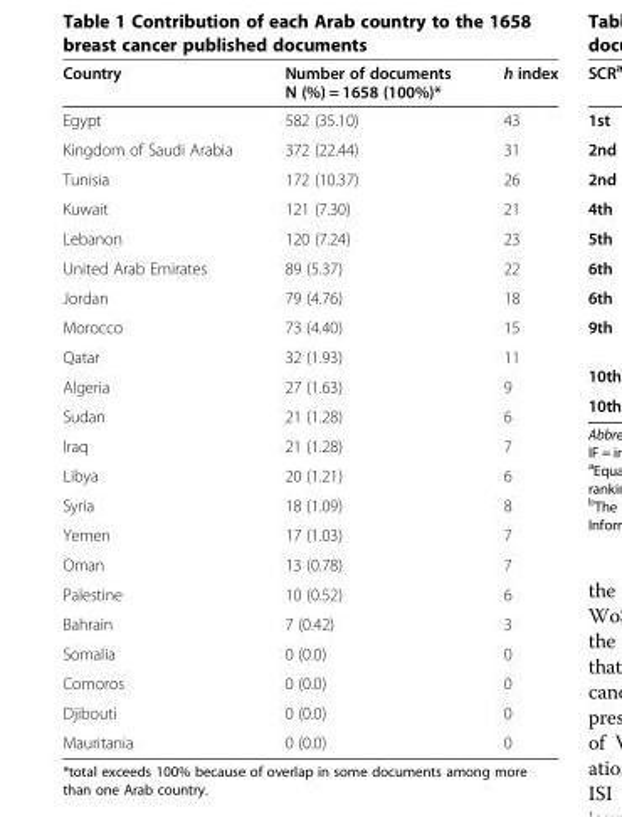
<table><thead><tr><td>Country</td><td>Number of documents N (%) = 1658 (100%)*</td><td>h index</td></tr></thead><tbody><tr><td>Egypt</td><td>582 (35.10)</td><td>43</td></tr><tr><td>Kingdom of Saudi Arabia</td><td>372 (22.44)</td><td>31</td></tr><tr><td>Tunisia</td><td>172 (10.37)</td><td>26</td></tr><tr><td>Kuwait</td><td>121 (7.30)</td><td>21</td></tr><tr><td>Lebanon</td><td>120 (7.24)</td><td>23</td></tr><tr><td>United Arab Emirates</td><td>89 (5.37)</td><td>22</td></tr><tr><td>Jordan</td><td>79 (4.76)</td><td>18</td></tr><tr><td>Morocco</td><td>73 (4.40)</td><td>15</td></tr><tr><td>Qatar</td><td>32 (1.93)</td><td>11</td></tr><tr><td>Algeria</td><td>27 (1.63)</td><td>9</td></tr><tr><td>Sudan</td><td>21 (1.28)</td><td>6</td></tr><tr><td>Iraq</td><td>21 (1.28)</td><td>7</td></tr><tr><td>Libya</td><td>20 (1.21)</td><td>6</td></tr><tr><td>Syria</td><td>18 (1.09)</td><td>8</td></tr><tr><td>Yemen</td><td>17 (1.03)</td><td>7</td></tr><tr><td>Oman</td><td>13 (0.78)</td><td>7</td></tr><tr><td>Palestine</td><td>10 (0.52)</td><td>6</td></tr><tr><td>Bahrain</td><td>7 (0.42)</td><td>3</td></tr><tr><td>Somalia</td><td>0 (0.0)</td><td>0</td></tr><tr><td>Comoros</td><td>0 (0.0)</td><td>0</td></tr><tr><td>Djibouti</td><td>0 (0.0)</td><td>0</td></tr><tr><td>Mauritania</td><td>0 (0.0)</td><td>0</td></tr></tbody></table>